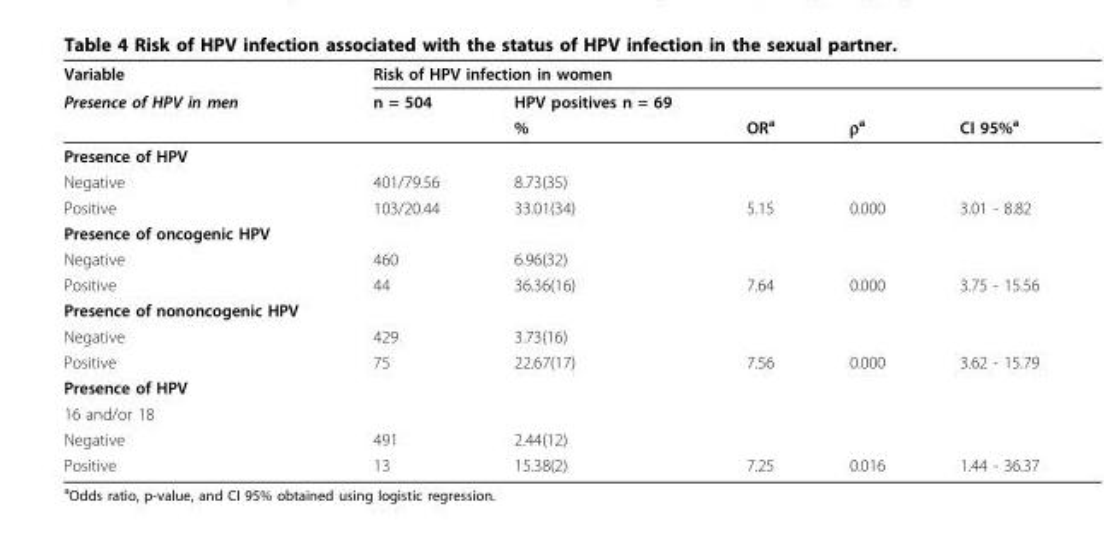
<table><thead><tr><td rowspan="3">Variable Presence of HPV in men</td><td colspan="5">Risk of HPV infection in women</td></tr><tr><td rowspan="2">n = 504</td><td rowspan="2">HPV positives n = 69 %</td><td rowspan="2">OR<sup>a</sup></td><td rowspan="2">ρ<sup>a</sup></td><td rowspan="2">CI 95%<sup>a</sup></td></tr><tr></tr></thead><tbody><tr><td colspan="6">Presence of HPV</td></tr><tr><td>Negative</td><td>401/79.56</td><td>8.73(35)</td><td></td><td></td><td></td></tr><tr><td>Positive</td><td>103/20.44</td><td>33.01(34)</td><td>5.15</td><td>0.000</td><td>3.01 - 8.82</td></tr><tr><td colspan="6">Presence of oncogenic HPV</td></tr><tr><td>Negative</td><td>460</td><td>6.96(32)</td><td></td><td></td><td></td></tr><tr><td>Positive</td><td>44</td><td>36.36(16)</td><td>7.64</td><td>0.000</td><td>3.75 - 15.56</td></tr><tr><td colspan="6">Presence of nononcogenic HPV</td></tr><tr><td>Negative</td><td>429</td><td>3.73(16)</td><td></td><td></td><td></td></tr><tr><td>Positive</td><td>75</td><td>22.67(17)</td><td>7.56</td><td>0.000</td><td>3.62 - 15.79</td></tr><tr><td colspan="6">Presence of HPV</td></tr><tr><td colspan="6">16 and/or 18</td></tr><tr><td>Negative</td><td>491</td><td>2.44(12)</td><td></td><td></td><td></td></tr><tr><td>Positive</td><td>13</td><td>15.38(2)</td><td>7.25</td><td>0.016</td><td>1.44 - 36.37</td></tr></tbody></table>